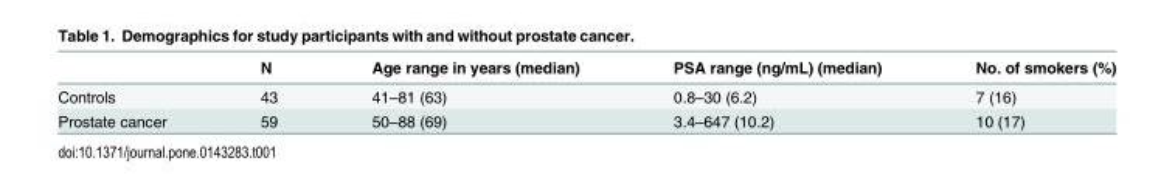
<table><thead><tr><td></td><td>N</td><td>Age range in years (median)</td><td>PSA range (ng/mL) (median)</td><td>No. of smokers (%)</td></tr></thead><tbody><tr><td>Controls</td><td>43</td><td>41–81 (63)</td><td>0.8–30 (6.2)</td><td>7 (16)</td></tr><tr><td>Prostate cancer</td><td>59</td><td>50–88 (69)</td><td>3.4–647 (10.2)</td><td>10 (17)</td></tr></tbody></table>